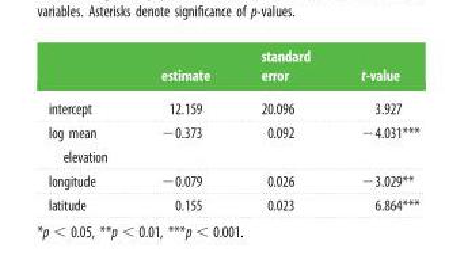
<table><thead><tr><td></td><td>estimate</td><td>standard error</td><td>t-value</td></tr></thead><tbody><tr><td>intercept</td><td>12.159</td><td>20.096</td><td>3.927</td></tr><tr><td>log mean elevation</td><td>−0.373</td><td>0.092</td><td>−4.031***</td></tr><tr><td>longitude</td><td>−0.079</td><td>0.026</td><td>−3.029**</td></tr><tr><td>latitude</td><td>0.155</td><td>0.023</td><td>6.864***</td></tr></tbody></table>